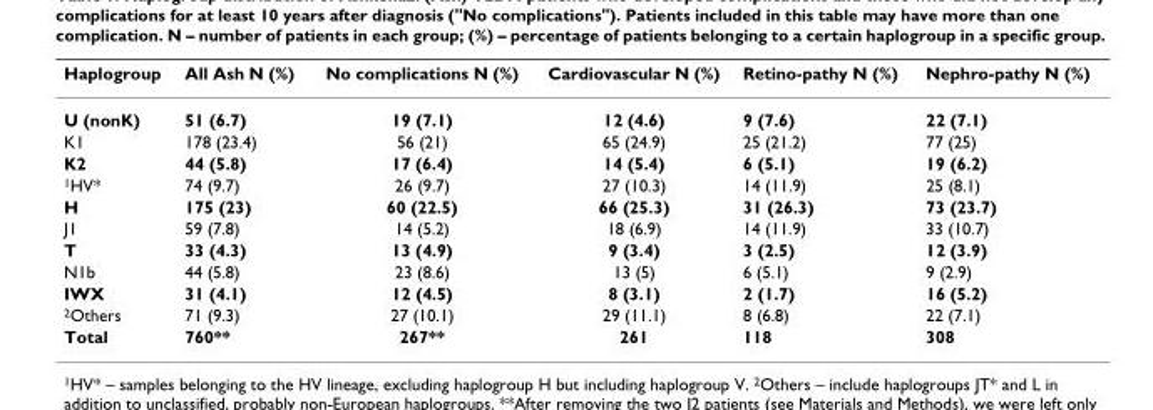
<table><thead><tr><td>Haplogroup</td><td>All Ash N (%)</td><td>No complications N (%)</td><td>Cardiovascular N (%)</td><td>Retino-pathy N (%)</td><td>Nephro-pathy N (%)</td></tr></thead><tbody><tr><td>U (nonK)</td><td>51 (6.7)</td><td>19 (7.1)</td><td>12 (4.6)</td><td>9 (7.6)</td><td>22 (7.1)</td></tr><tr><td>K1</td><td>178 (23.4)</td><td>56 (21)</td><td>65 (24.9)</td><td>25 (21.2)</td><td>77 (25)</td></tr><tr><td>K2</td><td>44 (5.8)</td><td>17 (6.4)</td><td>14 (5.4)</td><td>6 (5.1)</td><td>19 (6.2)</td></tr><tr><td><sup>1</sup>HV*</td><td>74 (9.7)</td><td>26 (9.7)</td><td>27 (10.3)</td><td>14 (11.9)</td><td>25 (8.1)</td></tr><tr><td>H</td><td>175 (23)</td><td>60 (22.5)</td><td>66 (25.3)</td><td>31 (26.3)</td><td>73 (23.7)</td></tr><tr><td>J1</td><td>59 (7.8)</td><td>14 (5.2)</td><td>18 (6.9)</td><td>14 (11.9)</td><td>33 (10.7)</td></tr><tr><td>T</td><td>33 (4.3)</td><td>13 (4.9)</td><td>9 (3.4)</td><td>3 (2.5)</td><td>12 (3.9)</td></tr><tr><td>N1b</td><td>44 (5.8)</td><td>23 (8.6)</td><td>13 (5)</td><td>6 (5.1)</td><td>9 (2.9)</td></tr><tr><td>IWX</td><td>31 (4.1)</td><td>12 (4.5)</td><td>8 (3.1)</td><td>2 (1.7)</td><td>16 (5.2)</td></tr><tr><td><sup>2</sup>Others</td><td>71 (9.3)</td><td>27 (10.1)</td><td>29 (11.1)</td><td>8 (6.8)</td><td>22 (7.1)</td></tr><tr><td>Total</td><td>760**</td><td>267**</td><td>261</td><td>118</td><td>308</td></tr></tbody></table>